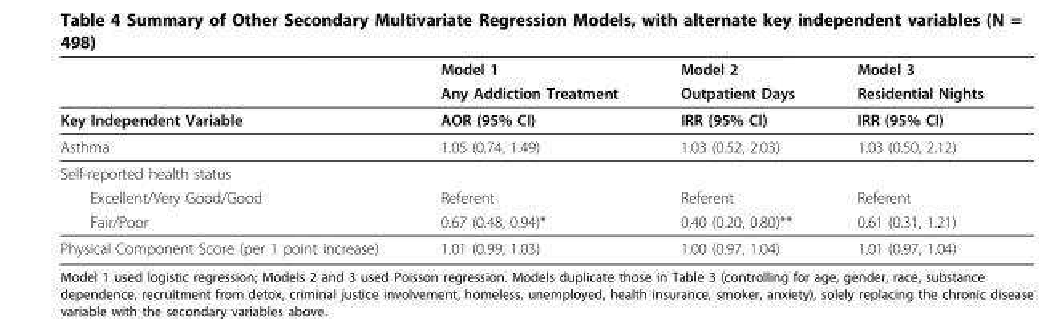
<table><thead><tr><td rowspan="2"></td><td rowspan="2">Model 1 Any Addiction Treatment</td><td rowspan="2">Model 2 Outpatient Days</td><td rowspan="2">Model 3 Residential Nights</td></tr><tr></tr></thead><tbody><tr><td>Key Independent Variable</td><td>AOR (95% CI)</td><td>IRR (95% CI)</td><td>IRR (95% CI)</td></tr><tr><td>Asthma</td><td>1.05 (0.74, 1.49)</td><td>1.03 (0.52, 2.03)</td><td>1.03 (0.50, 2.12)</td></tr><tr><td colspan="4">Self-reported health status</td></tr><tr><td>Excellent/Very Good/Good</td><td>Referent</td><td>Referent</td><td>Referent</td></tr><tr><td>Fair/Poor</td><td>0.67 (0.48, 0.94)*</td><td>0.40 (0.20, 0.80)**</td><td>0.61 (0.31, 1.21)</td></tr><tr><td>Physical Component Score (per 1 point increase)</td><td>1.01 (0.99, 1.03)</td><td>1.00 (0.97, 1.04)</td><td>1.01 (0.97, 1.04)</td></tr></tbody></table>